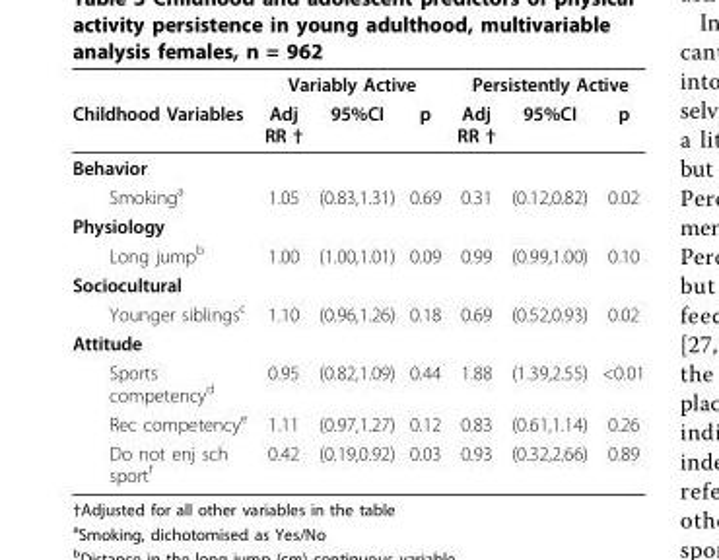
<table><thead><tr><td rowspan="2">Childhood Variables</td><td colspan="3">Variably Active</td><td colspan="3">Persistently Active</td></tr><tr><td>Adj RR †</td><td>95%CI</td><td>p</td><td>Adj RR †</td><td>95%CI</td><td>p</td></tr></thead><tbody><tr><td colspan="7">Behavior</td></tr><tr><td>Smoking<sup>a</sup></td><td>1.05</td><td>(0.83,1.31)</td><td>0.69</td><td>0.31</td><td>(0.12,0.82)</td><td>0.02</td></tr><tr><td colspan="7">Physiology</td></tr><tr><td>Long jump<sup>b</sup></td><td>1.00</td><td>(1.00,1.01)</td><td>0.09</td><td>0.99</td><td>(0.99,1.00)</td><td>0.10</td></tr><tr><td colspan="7">Sociocultural</td></tr><tr><td>Younger siblings<sup>c</sup></td><td>1.10</td><td>(0.96,1.26)</td><td>0.18</td><td>0.69</td><td>(0.52,0.93)</td><td>0.02</td></tr><tr><td colspan="7">Attitude</td></tr><tr><td>Sports competency<sup>d</sup></td><td>0.95</td><td>(0.82,1.09)</td><td>0.44</td><td>1.88</td><td>(1.39,2.55)</td><td>&lt;0.01</td></tr><tr><td>Rec competency<sup>e</sup></td><td>1.11</td><td>(0.97,1.27)</td><td>0.12</td><td>0.83</td><td>(0.61,1.14)</td><td>0.26</td></tr><tr><td>Do not enj sch sport<sup>f</sup></td><td>0.42</td><td>(0.19,0.92)</td><td>0.03</td><td>0.93</td><td>(0.32,2.66)</td><td>0.89</td></tr></tbody></table>